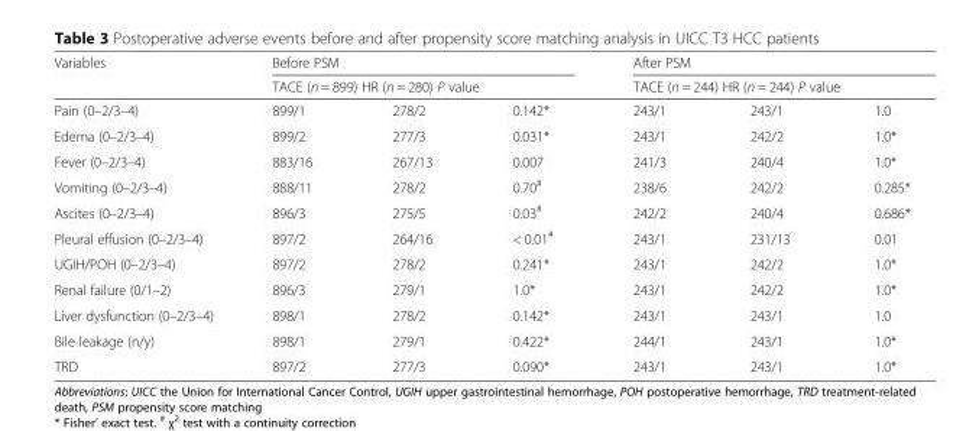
<table><thead><tr><td rowspan="3">Variables Pain (0–2/3–4)</td><td rowspan="2" colspan="3">Before PSM TACE (n = 899) HR (n = 280) P value</td><td rowspan="2" colspan="3">After PSM TACE (n = 244) HR (n = 244) P value</td></tr><tr></tr><tr><td>899/1</td><td>278/2</td><td>0.142*</td><td>243/1</td><td>243/1</td><td>1.0</td></tr></thead><tbody><tr><td>Edema (0–2/3–4)</td><td>899/2</td><td>277/3</td><td>0.031*</td><td>243/1</td><td>242/2</td><td>1.0*</td></tr><tr><td>Fever (0–2/3–4)</td><td>883/16</td><td>267/13</td><td>0.007</td><td>241/3</td><td>240/4</td><td>1.0*</td></tr><tr><td>Vomiting (0–2/3–4)</td><td>888/11</td><td>278/2</td><td>0.70<sup>#</sup></td><td>238/6</td><td>242/2</td><td>0.285*</td></tr><tr><td>Ascites (0–2/3–4)</td><td>896/3</td><td>275/5</td><td>0.03<sup>#</sup></td><td>242/2</td><td>240/4</td><td>0.686*</td></tr><tr><td>Pleural effusion (0–2/3–4)</td><td>897/2</td><td>264/16</td><td>&lt; 0.01<sup>#</sup></td><td>243/1</td><td>231/13</td><td>0.01</td></tr><tr><td>UGIH/POH (0–2/3–4)</td><td>897/2</td><td>278/2</td><td>0.241*</td><td>243/1</td><td>242/2</td><td>1.0*</td></tr><tr><td>Renal failure (0/1–2)</td><td>896/3</td><td>279/1</td><td>1.0*</td><td>243/1</td><td>242/2</td><td>1.0*</td></tr><tr><td>Liver dysfunction (0–2/3–4)</td><td>898/1</td><td>278/2</td><td>0.142*</td><td>243/1</td><td>243/1</td><td>1.0</td></tr><tr><td>Bile leakage (n/y)</td><td>898/1</td><td>279/1</td><td>0.422*</td><td>244/1</td><td>243/1</td><td>1.0*</td></tr><tr><td>TRD</td><td>897/2</td><td>277/3</td><td>0.090*</td><td>243/1</td><td>243/1</td><td>1.0*</td></tr></tbody></table>